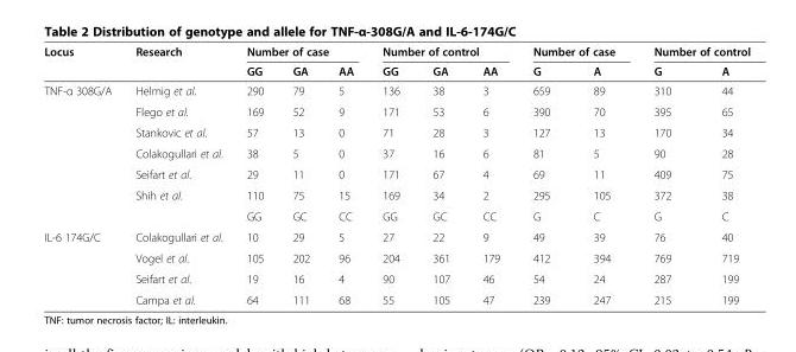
<table><thead><tr><td rowspan="2">Locus</td><td rowspan="2">Research</td><td colspan="3">Number of case</td><td colspan="3">Number of control</td><td colspan="2">Number of case</td><td colspan="2">Number of control</td></tr><tr><td>GG</td><td>GA</td><td>AA</td><td>GG</td><td>GA</td><td>AA</td><td>G</td><td>A</td><td>G</td><td>A</td></tr></thead><tbody><tr><td rowspan="7">TNF-α 308G/A</td><td>Helmig et al.</td><td>290</td><td>79</td><td>5</td><td>136</td><td>38</td><td>3</td><td>659</td><td>89</td><td>310</td><td>44</td></tr><tr><td>Flego et al.</td><td>169</td><td>52</td><td>9</td><td>171</td><td>53</td><td>6</td><td>390</td><td>70</td><td>395</td><td>65</td></tr><tr><td>Stankovic et al.</td><td>57</td><td>13</td><td>0</td><td>71</td><td>28</td><td>3</td><td>127</td><td>13</td><td>170</td><td>34</td></tr><tr><td>Colakogullari et al.</td><td>38</td><td>5</td><td>0</td><td>37</td><td>16</td><td>6</td><td>81</td><td>5</td><td>90</td><td>28</td></tr><tr><td>Seifart et al.</td><td>29</td><td>11</td><td>0</td><td>171</td><td>67</td><td>4</td><td>69</td><td>11</td><td>409</td><td>75</td></tr><tr><td>Shih et al.</td><td>110</td><td>75</td><td>15</td><td>169</td><td>34</td><td>2</td><td>295</td><td>105</td><td>372</td><td>38</td></tr><tr><td></td><td>GG</td><td>GC</td><td>CC</td><td>GG</td><td>GC</td><td>CC</td><td>G</td><td>C</td><td>G</td><td>C</td></tr><tr><td rowspan="4">IL-6 174G/C</td><td>Colakogullari et al.</td><td>10</td><td>29</td><td>5</td><td>27</td><td>22</td><td>9</td><td>49</td><td>39</td><td>76</td><td>40</td></tr><tr><td>Vogel et al.</td><td>105</td><td>202</td><td>96</td><td>204</td><td>361</td><td>179</td><td>412</td><td>394</td><td>769</td><td>719</td></tr><tr><td>Seifart et al.</td><td>19</td><td>16</td><td>4</td><td>90</td><td>107</td><td>46</td><td>54</td><td>24</td><td>287</td><td>199</td></tr><tr><td>Campa et al.</td><td>64</td><td>111</td><td>68</td><td>55</td><td>105</td><td>47</td><td>239</td><td>247</td><td>215</td><td>199</td></tr></tbody></table>